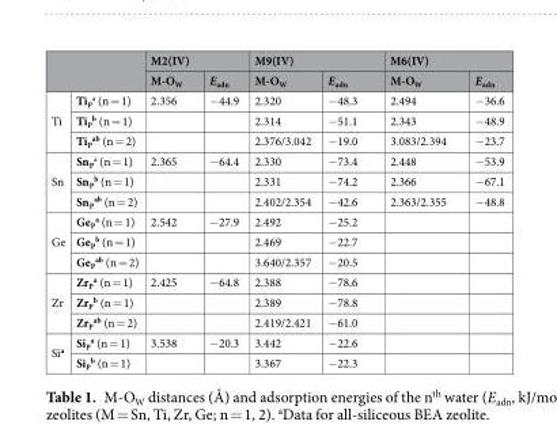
<table><thead><tr><td rowspan="2"></td><td rowspan="2"></td><td colspan="2">M2(IV)</td><td colspan="2">M9(IV)</td><td colspan="2">M6(IV)</td></tr><tr><td>M-O<sub>W</sub></td><td>E<sub>adn</sub></td><td>M-O<sub>W</sub></td><td>E<sub>adn</sub></td><td>M-O<sub>W</sub></td><td>E<sub>adn</sub></td></tr></thead><tbody><tr><td rowspan="3">Ti</td><td>Ti<sub>P</sub> <sup>a</sup> (n = 1)</td><td>2.356</td><td>−44.9</td><td>2.320</td><td>−48.3</td><td>2.494</td><td>−36.6</td></tr><tr><td>Ti<sub>P</sub> <sup>b</sup> (n = 1)</td><td></td><td></td><td>2.314</td><td>−51.1</td><td>2.343</td><td>−48.9</td></tr><tr><td>Ti<sub>P</sub> <sup>ab</sup> (n = 2)</td><td></td><td></td><td>2.376/3.042</td><td>−19.0</td><td>3.083/2.394</td><td>−23.7</td></tr><tr><td rowspan="3">Sn</td><td>Sn<sub>P</sub> <sup>a</sup> (n = 1)</td><td>2.365</td><td>−64.4</td><td>2.330</td><td>−73.4</td><td>2.448</td><td>−53.9</td></tr><tr><td>Sn<sub>P</sub> <sup>b</sup> (n = 1)</td><td></td><td></td><td>2.331</td><td>−74.2</td><td>2.366</td><td>−67.1</td></tr><tr><td>Sn<sub>P</sub> <sup>ab</sup> (n = 2)</td><td></td><td></td><td>2.402/2.354</td><td>−42.6</td><td>2.363/2.355</td><td>−48.8</td></tr><tr><td rowspan="3">Ge</td><td>Ge<sub>P</sub> <sup>a</sup> (n = 1)</td><td>2.542</td><td>−27.9</td><td>2.492</td><td>−25.2</td><td></td><td></td></tr><tr><td>Ge<sub>P</sub> <sup>b</sup> (n = 1)</td><td></td><td></td><td>2.469</td><td>−22.7</td><td></td><td></td></tr><tr><td>Ge<sub>P</sub> <sup>ab</sup> (n = 2)</td><td></td><td></td><td>3.640/2.357</td><td>−20.5</td><td></td><td></td></tr><tr><td rowspan="3">Zr</td><td>Zr<sub>P</sub> <sup>a</sup> (n = 1)</td><td>2.425</td><td>−64.8</td><td>2.388</td><td>−78.6</td><td></td><td></td></tr><tr><td>Zr<sub>P</sub> <sup>b</sup> (n = 1)</td><td></td><td></td><td>2.389</td><td>−78.8</td><td></td><td></td></tr><tr><td>Zr<sub>P</sub> <sup>ab</sup> (n = 2)</td><td></td><td></td><td>2.419/2.421</td><td>−61.0</td><td></td><td></td></tr><tr><td rowspan="2">Si<sup>a</sup></td><td>Si<sub>P</sub> <sup>a</sup> (n = 1)</td><td>3.538</td><td>−20.3</td><td>3.442</td><td>−22.6</td><td></td><td></td></tr><tr><td>Si<sub>P</sub> <sup>b</sup> (n = 1)</td><td></td><td></td><td>3.367</td><td>−22.3</td><td></td><td></td></tr></tbody></table>